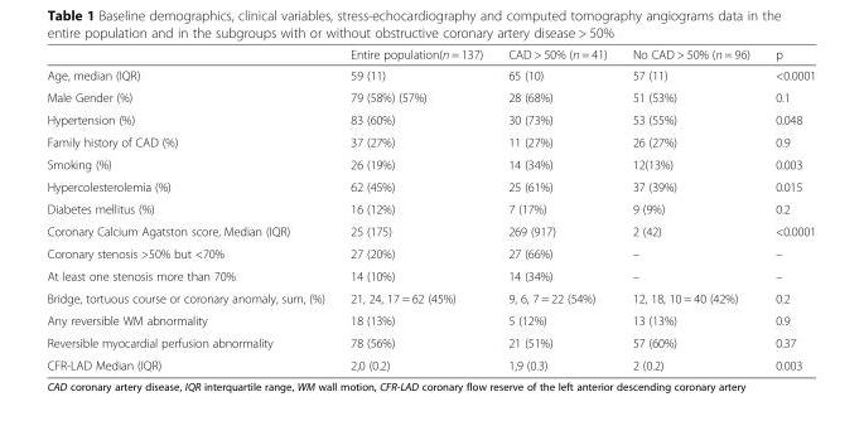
<table><thead><tr><td></td><td>Entire population(n = 137)</td><td>CAD &gt; 50% (n = 41)</td><td>No CAD &gt; 50% (n = 96)</td><td>p</td></tr></thead><tbody><tr><td>Age, median (IQR)</td><td>59 (11)</td><td>65 (10)</td><td>57 (11)</td><td>&lt;0.0001</td></tr><tr><td>Male Gender (%)</td><td>79 (58%) (57%)</td><td>28 (68%)</td><td>51 (53%)</td><td>0.1</td></tr><tr><td>Hypertension (%)</td><td>83 (60%)</td><td>30 (73%)</td><td>53 (55%)</td><td>0.048</td></tr><tr><td>Family history of CAD (%)</td><td>37 (27%)</td><td>11 (27%)</td><td>26 (27%)</td><td>0.9</td></tr><tr><td>Smoking (%)</td><td>26 (19%)</td><td>14 (34%)</td><td>12(13%)</td><td>0.003</td></tr><tr><td>Hypercolesterolemia (%)</td><td>62 (45%)</td><td>25 (61%)</td><td>37 (39%)</td><td>0.015</td></tr><tr><td>Diabetes mellitus (%)</td><td>16 (12%)</td><td>7 (17%)</td><td>9 (9%)</td><td>0.2</td></tr><tr><td>Coronary Calcium Agatston score, Median (IQR)</td><td>25 (175)</td><td>269 (917)</td><td>2 (42)</td><td>&lt;0.0001</td></tr><tr><td>Coronary stenosis &gt;50% but &lt;70%</td><td>27 (20%)</td><td>27 (66%)</td><td>–</td><td>–</td></tr><tr><td>At least one stenosis more than 70%</td><td>14 (10%)</td><td>14 (34%)</td><td>–</td><td>–</td></tr><tr><td>Bridge, tortuous course or coronary anomaly, sum, (%)</td><td>21, 24, 17 = 62 (45%)</td><td>9, 6, 7 = 22 (54%)</td><td>12, 18, 10 = 40 (42%)</td><td>0.2</td></tr><tr><td>Any reversible WM abnormality</td><td>18 (13%)</td><td>5 (12%)</td><td>13 (13%)</td><td>0.9</td></tr><tr><td>Reversible myocardial perfusion abnormality</td><td>78 (56%)</td><td>21 (51%)</td><td>57 (60%)</td><td>0.37</td></tr><tr><td>CFR-LAD Median (IQR)</td><td>2,0 (0.2)</td><td>1,9 (0.3)</td><td>2 (0.2)</td><td>0.003</td></tr></tbody></table>